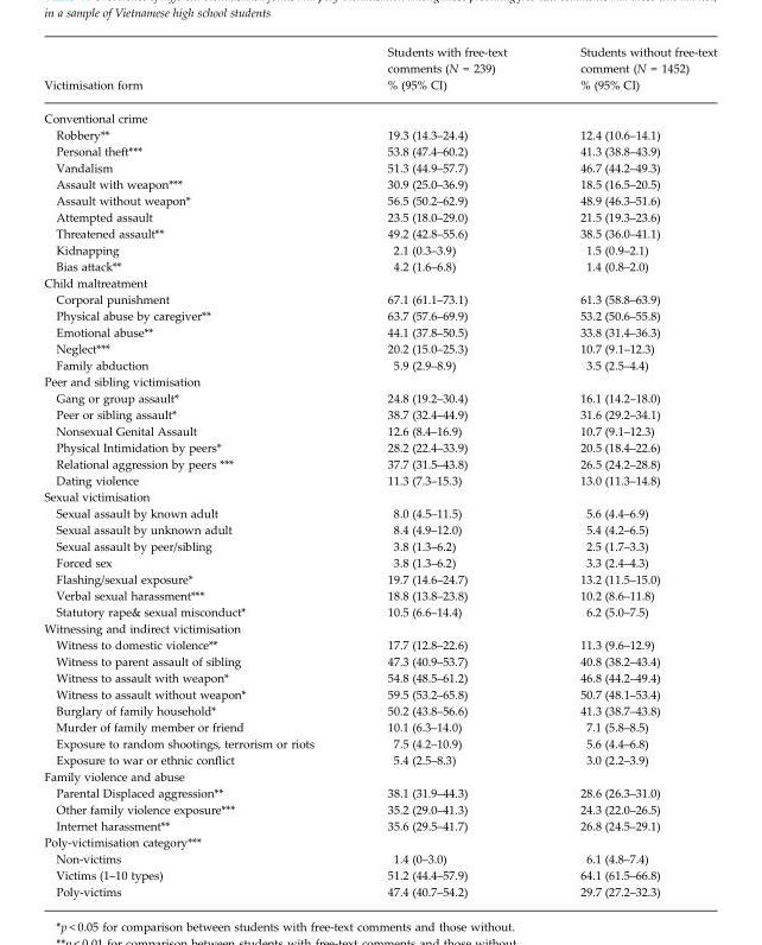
<table><thead><tr><td>Victimisation form</td><td>Students with free-text comments (N = 239) % (95% CI)</td><td>Students without free-text comment (N = 1452) % (95% CI)</td></tr></thead><tbody><tr><td colspan="3">Conventional crime</td></tr><tr><td>Robbery**</td><td>19.3 (14.3–24.4)</td><td>12.4 (10.6–14.1)</td></tr><tr><td>Personal theft***</td><td>53.8 (47.4–60.2)</td><td>41.3 (38.8–43.9)</td></tr><tr><td>Vandalism</td><td>51.3 (44.9–57.7)</td><td>46.7 (44.2–49.3)</td></tr><tr><td>Assault with weapon***</td><td>30.9 (25.0–36.9)</td><td>18.5 (16.5–20.5)</td></tr><tr><td>Assault without weapon*</td><td>56.5 (50.2–62.9)</td><td>48.9 (46.3–51.6)</td></tr><tr><td>Attempted assault</td><td>23.5 (18.0–29.0)</td><td>21.5 (19.3–23.6)</td></tr><tr><td>Threatened assault**</td><td>49.2 (42.8–55.6)</td><td>38.5 (36.0–41.1)</td></tr><tr><td>Kidnapping</td><td>2.1 (0.3–3.9)</td><td>1.5 (0.9–2.1)</td></tr><tr><td>Bias attack**</td><td>4.2 (1.6–6.8)</td><td>1.4 (0.8–2.0)</td></tr><tr><td colspan="3">Child maltreatment</td></tr><tr><td>Corporal punishment</td><td>67.1 (61.1–73.1)</td><td>61.3 (58.8–63.9)</td></tr><tr><td>Physical abuse by caregiver**</td><td>63.7 (57.6–69.9)</td><td>53.2 (50.6–55.8)</td></tr><tr><td>Emotional abuse**</td><td>44.1 (37.8–50.5)</td><td>33.8 (31.4–36.3)</td></tr><tr><td>Neglect***</td><td>20.2 (15.0–25.3)</td><td>10.7 (9.1–12.3)</td></tr><tr><td>Family abduction</td><td>5.9 (2.9–8.9)</td><td>3.5 (2.5–4.4)</td></tr><tr><td colspan="3">Peer and sibling victimisation</td></tr><tr><td>Gang or group assault*</td><td>24.8 (19.2–30.4)</td><td>16.1 (14.2–18.0)</td></tr><tr><td>Peer or sibling assault*</td><td>38.7 (32.4–44.9)</td><td>31.6 (29.2–34.1)</td></tr><tr><td>Nonsexual Genital Assault</td><td>12.6 (8.4–16.9)</td><td>10.7 (9.1–12.3)</td></tr><tr><td>Physical Intimidation by peers*</td><td>28.2 (22.4–33.9)</td><td>20.5 (18.4–22.6)</td></tr><tr><td>Relational aggression by peers ***</td><td>37.7 (31.5–43.8)</td><td>26.5 (24.2–28.8)</td></tr><tr><td>Dating violence</td><td>11.3 (7.3–15.3)</td><td>13.0 (11.3–14.8)</td></tr><tr><td colspan="3">Sexual victimisation</td></tr><tr><td>Sexual assault by known adult</td><td>8.0 (4.5–11.5)</td><td>5.6 (4.4–6.9)</td></tr><tr><td>Sexual assault by unknown adult</td><td>8.4 (4.9–12.0)</td><td>5.4 (4.2–6.5)</td></tr><tr><td>Sexual assault by peer/sibling</td><td>3.8 (1.3–6.2)</td><td>2.5 (1.7–3.3)</td></tr><tr><td>Forced sex</td><td>3.8 (1.3–6.2)</td><td>3.3 (2.4–4.3)</td></tr><tr><td>Flashing/sexual exposure*</td><td>19.7 (14.6–24.7)</td><td>13.2 (11.5–15.0)</td></tr><tr><td>Verbal sexual harassment***</td><td>18.8 (13.8–23.8)</td><td>10.2 (8.6–11.8)</td></tr><tr><td>Statutory rape&amp; sexual misconduct*</td><td>10.5 (6.6–14.4)</td><td>6.2 (5.0–7.5)</td></tr><tr><td colspan="3">Witnessing and indirect victimisation</td></tr><tr><td>Witness to domestic violence**</td><td>17.7 (12.8–22.6)</td><td>11.3 (9.6–12.9)</td></tr><tr><td>Witness to parent assault of sibling</td><td>47.3 (40.9–53.7)</td><td>40.8 (38.2–43.4)</td></tr><tr><td>Witness to assault with weapon*</td><td>54.8 (48.5–61.2)</td><td>46.8 (44.2–49.4)</td></tr><tr><td>Witness to assault without weapon*</td><td>59.5 (53.2–65.8)</td><td>50.7 (48.1–53.4)</td></tr><tr><td>Burglary of family household*</td><td>50.2 (43.8–56.6)</td><td>41.3 (38.7–43.8)</td></tr><tr><td>Murder of family member or friend</td><td>10.1 (6.3–14.0)</td><td>7.1 (5.8–8.5)</td></tr><tr><td>Exposure to random shootings, terrorism or riots</td><td>7.5 (4.2–10.9)</td><td>5.6 (4.4–6.8)</td></tr><tr><td>Exposure to war or ethnic conflict</td><td>5.4 (2.5–8.3)</td><td>3.0 (2.2–3.9)</td></tr><tr><td colspan="3">Family violence and abuse</td></tr><tr><td>Parental Displaced aggression**</td><td>38.1 (31.9–44.3)</td><td>28.6 (26.3–31.0)</td></tr><tr><td>Other family violence exposure***</td><td>35.2 (29.0–41.3)</td><td>24.3 (22.0–26.5)</td></tr><tr><td>Internet harassment**</td><td>35.6 (29.5–41.7)</td><td>26.8 (24.5–29.1)</td></tr><tr><td colspan="3">Poly-victimisation category***</td></tr><tr><td>Non-victims</td><td>1.4 (0–3.0)</td><td>6.1 (4.8–7.4)</td></tr><tr><td>Victims (1–10 types)</td><td>51.2 (44.4–57.9)</td><td>64.1 (61.5–66.8)</td></tr><tr><td>Poly-victims</td><td>47.4 (40.7–54.2)</td><td>29.7 (27.2–32.3)</td></tr></tbody></table>